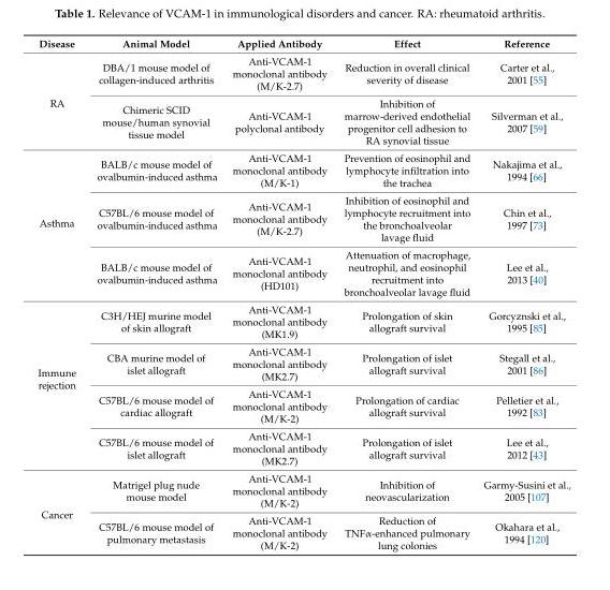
<table><thead><tr><td>Disease</td><td>Animal Model</td><td>Applied Antibody</td><td>Effect</td><td>Reference</td></tr></thead><tbody><tr><td rowspan="2">RA</td><td>DBA/1 mouse model of collagen-induced arthritis</td><td>Anti-VCAM-1 monoclonal antibody (M/K-2.7)</td><td>Reduction in overall clinical severity of disease</td><td>Carter et al., 2001 [55]</td></tr><tr><td>Chimeric SCID mouse/human synovial tissue model</td><td>Anti-VCAM-1 polyclonal antibody</td><td>Inhibition of marrow-derived endothelial progenitor cell adhesion to RA synovial tissue</td><td>Silverman et al., 2007 [59]</td></tr><tr><td rowspan="3">Asthma</td><td>BALB/c mouse model of ovalbumin-induced asthma</td><td>Anti-VCAM-1 monoclonal antibody (M/K-1)</td><td>Prevention of eosinophil and lymphocyte infiltration into the trachea</td><td>Nakajima et al., 1994 [66]</td></tr><tr><td>C57BL/6 mouse model of ovalbumin-induced asthma</td><td>Anti-VCAM-1 monoclonal antibody (M/K-2.7)</td><td>Inhibition of eosinophil and lymphocyte recruitment into the bronchoalveolar lavage fluid</td><td>Chin et al., 1997 [73]</td></tr><tr><td>BALB/c mouse model of ovalbumin-induced asthma</td><td>Anti-VCAM-1 monoclonal antibody (HD101)</td><td>Attenuation of macrophage, neutrophil, and eosinophil recruitment into bronchoalveolar lavage fluid</td><td>Lee et al., 2013 [40]</td></tr><tr><td rowspan="4">Immune rejection</td><td>C3H/HEJ murine model of skin allograft</td><td>Anti-VCAM-1 monoclonal antibody (MK1.9)</td><td>Prolongation of skin allograft survival</td><td>Gorcyznski et al., 1995 [85]</td></tr><tr><td>CBA murine model of islet allograft</td><td>Anti-VCAM-1 monoclonal antibody (MK2.7)</td><td>Prolongation of islet allograft survival</td><td>Stegall et al., 2001 [86]</td></tr><tr><td>C57BL/6 mouse model of cardiac allograft</td><td>Anti-VCAM-1 monoclonal antibody (M/K-2)</td><td>Prolongation of cardiac allograft survival</td><td>Pelletier et al., 1992 [83]</td></tr><tr><td>C57BL/6 mouse model of islet allograft</td><td>Anti-VCAM-1 monoclonal antibody (MK2.7)</td><td>Prolongation of islet allograft survival</td><td>Lee et al., 2012 [43]</td></tr><tr><td rowspan="2">Cancer</td><td>Matrigel plug nude mouse model</td><td>Anti-VCAM-1 monoclonal antibody (M/K-2)</td><td>Inhibition of neovascularization</td><td>Garmy-Susini et al., 2005 [107]</td></tr><tr><td>C57BL/6 mouse model of pulmonary metastasis</td><td>Anti-VCAM-1 monoclonal antibody (M/K-2)</td><td>Reduction of TNFα-enhanced pulmonary lung colonies</td><td>Okahara et al., 1994 [120]</td></tr></tbody></table>